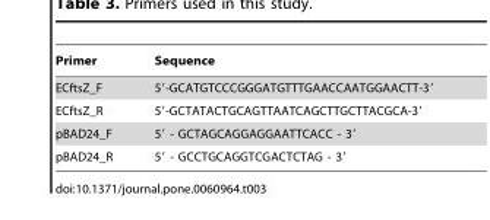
<table><thead><tr><td>Primer</td><td>Sequence</td></tr></thead><tbody><tr><td>ECftsZ_F</td><td>5′-GCATGTCCCGGGATGTTTGAACCAATGGAACTT-3′</td></tr><tr><td>ECftsZ_R</td><td>5′-GCTATACTGCAGTTAATCAGCTTGCTTACGCA-3′</td></tr><tr><td>pBAD24_F</td><td>5′ - GCTAGCAGGAGGAATTCACC - 3′</td></tr><tr><td>pBAD24_R</td><td>5′ - GCCTGCAGGTCGACTCTAG - 3′</td></tr></tbody></table>